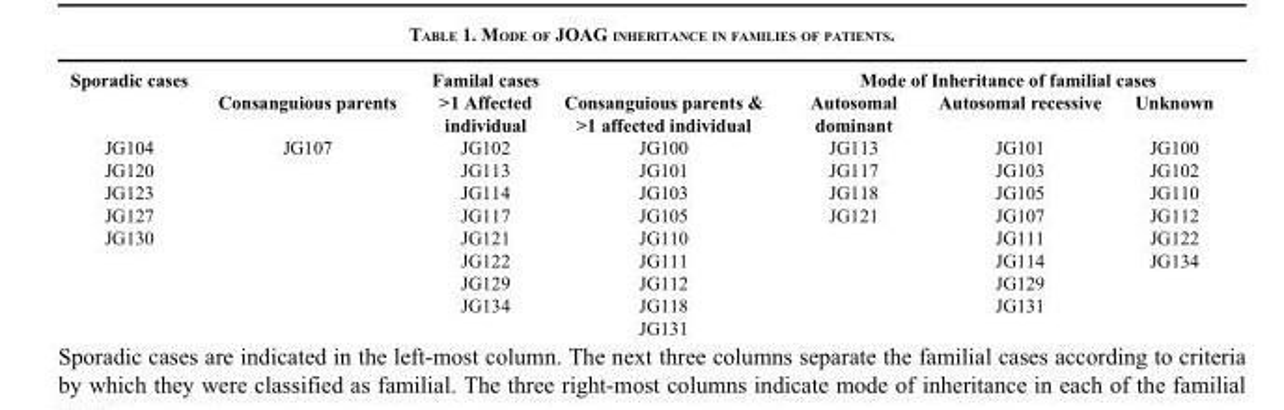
<table><tbody><tr><td rowspan="2">Sporadic cases</td><td colspan="3">Familal cases</td><td colspan="3">Mode of Inheritance of familial cases</td></tr><tr><td>Consanguious parents</td><td>&gt;1 Affected individual</td><td>Consanguious parents &amp; &gt;1 affected individual</td><td>Autosomal dominant</td><td>Autosomal recessive</td><td>Unknown</td></tr><tr><td>JG104</td><td>JG107</td><td>JG102</td><td>JG100</td><td>JG113</td><td>JG101</td><td>JG100</td></tr><tr><td>JG120</td><td></td><td>JG113</td><td>JG101</td><td>JG117</td><td>JG103</td><td>JG102</td></tr><tr><td>JG123</td><td></td><td>JG114</td><td>JG103</td><td>JG118</td><td>JG105</td><td>JG110</td></tr><tr><td>JG127</td><td></td><td>JG117</td><td>JG105</td><td>JG121</td><td>JG107</td><td>JG112</td></tr><tr><td rowspan="5">JG130</td><td></td><td>JG121</td><td>JG110</td><td></td><td>JG111</td><td>JG122</td></tr><tr><td></td><td>JG122</td><td>JG111</td><td></td><td>JG114</td><td>JG134</td></tr><tr><td></td><td>JG129</td><td>JG112</td><td></td><td>JG129</td><td></td></tr><tr><td></td><td>JG134</td><td>JG118</td><td></td><td>JG131</td><td></td></tr><tr><td></td><td></td><td>JG131</td><td></td><td></td><td></td></tr></tbody></table>